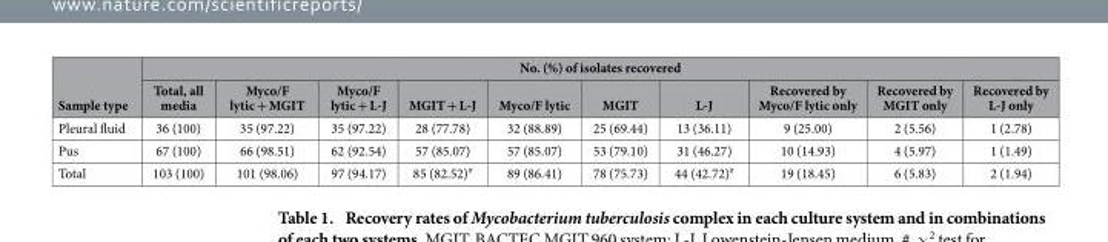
<table><thead><tr><td rowspan="2">Sample type</td><td colspan="10">No. (%) of isolates recovered</td></tr><tr><td>Total, all media</td><td>Myco/F lytic + MGIT</td><td>Myco/F lytic + L-J</td><td>MGIT + L-J</td><td>Myco/F lytic</td><td>MGIT</td><td>L-J</td><td>Recovered by Myco/F lytic only</td><td>Recovered by MGIT only</td><td>Recovered by L-J only</td></tr></thead><tbody><tr><td>Pleural fluid</td><td>36 (100)</td><td>35 (97.22)</td><td>35 (97.22)</td><td>28 (77.78)</td><td>32 (88.89)</td><td>25 (69.44)</td><td>13 (36.11)</td><td>9 (25.00)</td><td>2 (5.56)</td><td>1 (2.78)</td></tr><tr><td>Pus</td><td>67 (100)</td><td>66 (98.51)</td><td>62 (92.54)</td><td>57 (85.07)</td><td>57 (85.07)</td><td>53 (79.10)</td><td>31 (46.27)</td><td>10 (14.93)</td><td>4 (5.97)</td><td>1 (1.49)</td></tr><tr><td>Total</td><td>103 (100)</td><td>101 (98.06)</td><td>97 (94.17)</td><td>85 (82.52)﹟</td><td>89 (86.41)</td><td>78 (75.73)</td><td>44 (42.72)﹟</td><td>19 (18.45)</td><td>6 (5.83)</td><td>2 (1.94)</td></tr></tbody></table>